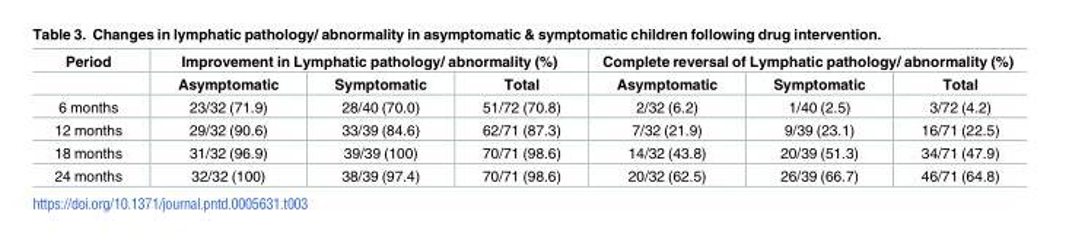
<table><thead><tr><td rowspan="2">Period</td><td colspan="3">Improvement in Lymphatic pathology/ abnormality (%)</td><td colspan="3">Complete reversal of Lymphatic pathology/ abnormality (%)</td></tr><tr><td>Asymptomatic</td><td>Symptomatic</td><td>Total</td><td>Asymptomatic</td><td>Symptomatic</td><td>Total</td></tr></thead><tbody><tr><td>6 months</td><td>23/32 (71.9)</td><td>28/40 (70.0)</td><td>51/72 (70.8)</td><td>2/32 (6.2)</td><td>1/40 (2.5)</td><td>3/72 (4.2)</td></tr><tr><td>12 months</td><td>29/32 (90.6)</td><td>33/39 (84.6)</td><td>62/71 (87.3)</td><td>7/32 (21.9)</td><td>9/39 (23.1)</td><td>16/71 (22.5)</td></tr><tr><td>18 months</td><td>31/32 (96.9)</td><td>39/39 (100)</td><td>70/71 (98.6)</td><td>14/32 (43.8)</td><td>20/39 (51.3)</td><td>34/71 (47.9)</td></tr><tr><td>24 months</td><td>32/32 (100)</td><td>38/39 (97.4)</td><td>70/71 (98.6)</td><td>20/32 (62.5)</td><td>26/39 (66.7)</td><td>46/71 (64.8)</td></tr></tbody></table>